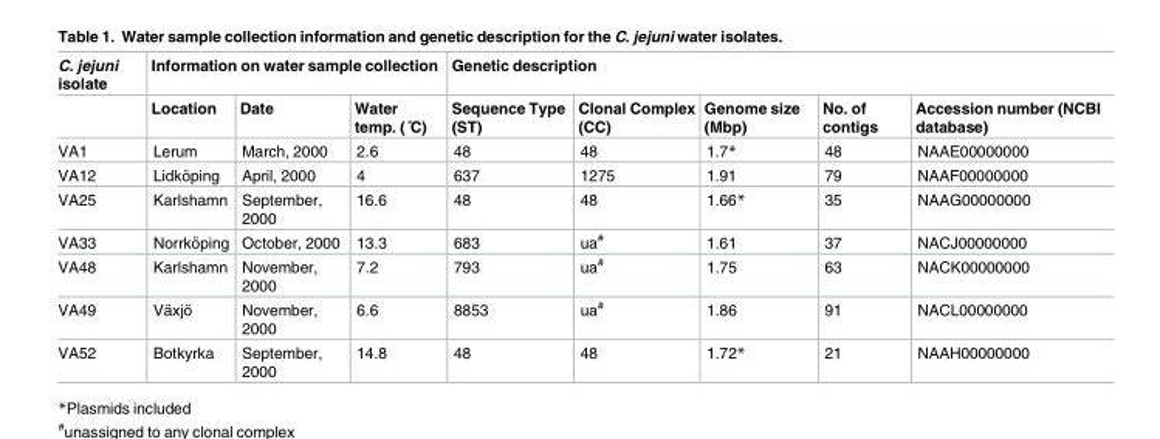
<table><thead><tr><td rowspan="2">C. jejuni isolate</td><td colspan="3">Information on water sample collection</td><td colspan="5">Genetic description</td></tr><tr><td>Location</td><td>Date</td><td>Water temp. (˚C)</td><td>Sequence Type (ST)</td><td>Clonal Complex (CC)</td><td>Genome size (Mbp)</td><td>No. of contigs</td><td>Accession number (NCBI database)</td></tr></thead><tbody><tr><td>VA1</td><td>Lerum</td><td>March, 2000</td><td>2.6</td><td>48</td><td>48</td><td>1.7*</td><td>48</td><td>NAAE00000000</td></tr><tr><td>VA12</td><td>Lidko¨ping</td><td>April, 2000</td><td>4</td><td>637</td><td>1275</td><td>1.91</td><td>79</td><td>NAAF00000000</td></tr><tr><td>VA25</td><td>Karlshamn</td><td>September, 2000</td><td>16.6</td><td>48</td><td>48</td><td>1.66*</td><td>35</td><td>NAAG00000000</td></tr><tr><td>VA33</td><td>Norrko¨ping</td><td>October, 2000</td><td>13.3</td><td>683</td><td>ua<sup>#</sup></td><td>1.61</td><td>37</td><td>NACJ00000000</td></tr><tr><td>VA48</td><td>Karlshamn</td><td>November, 2000</td><td>7.2</td><td>793</td><td>ua<sup>#</sup></td><td>1.75</td><td>63</td><td>NACK00000000</td></tr><tr><td>VA49</td><td>Va¨xjo¨</td><td>November, 2000</td><td>6.6</td><td>8853</td><td>ua<sup>#</sup></td><td>1.86</td><td>91</td><td>NACL00000000</td></tr><tr><td>VA52</td><td>Botkyrka</td><td>September, 2000</td><td>14.8</td><td>48</td><td>48</td><td>1.72*</td><td>21</td><td>NAAH00000000</td></tr></tbody></table>